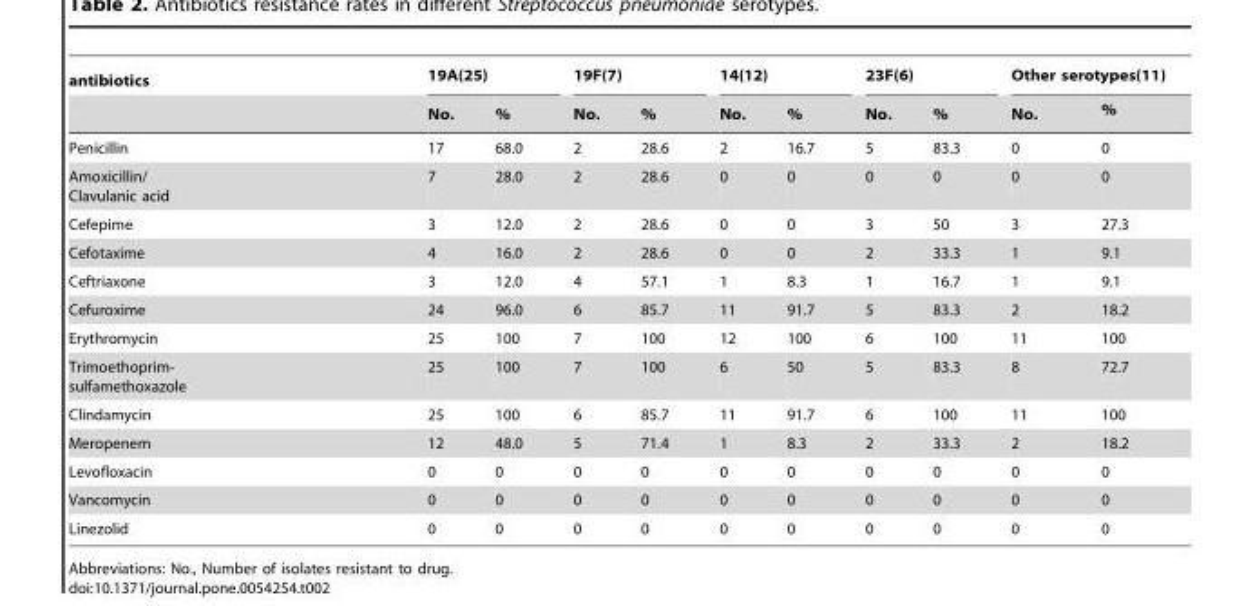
<table><thead><tr><td rowspan="2">antibiotics</td><td colspan="2">19A(25)</td><td colspan="2">19F(7)</td><td colspan="2">14(12)</td><td colspan="2">23F(6)</td><td colspan="2">Other serotypes(11)</td></tr><tr><td>No.</td><td>%</td><td>No.</td><td>%</td><td>No.</td><td>%</td><td>No.</td><td>%</td><td>No.</td><td>%</td></tr></thead><tbody><tr><td>Penicillin</td><td>17</td><td>68.0</td><td>2</td><td>28.6</td><td>2</td><td>16.7</td><td>5</td><td>83.3</td><td>0</td><td>0</td></tr><tr><td>Amoxicillin/ Clavulanic acid</td><td>7</td><td>28.0</td><td>2</td><td>28.6</td><td>0</td><td>0</td><td>0</td><td>0</td><td>0</td><td>0</td></tr><tr><td>Cefepime</td><td>3</td><td>12.0</td><td>2</td><td>28.6</td><td>0</td><td>0</td><td>3</td><td>50</td><td>3</td><td>27.3</td></tr><tr><td>Cefotaxime</td><td>4</td><td>16.0</td><td>2</td><td>28.6</td><td>0</td><td>0</td><td>2</td><td>33.3</td><td>1</td><td>9.1</td></tr><tr><td>Ceftriaxone</td><td>3</td><td>12.0</td><td>4</td><td>57.1</td><td>1</td><td>8.3</td><td>1</td><td>16.7</td><td>1</td><td>9.1</td></tr><tr><td>Cefuroxime</td><td>24</td><td>96.0</td><td>6</td><td>85.7</td><td>11</td><td>91.7</td><td>5</td><td>83.3</td><td>2</td><td>18.2</td></tr><tr><td>Erythromycin</td><td>25</td><td>100</td><td>7</td><td>100</td><td>12</td><td>100</td><td>6</td><td>100</td><td>11</td><td>100</td></tr><tr><td>Trimoethoprim- sulfamethoxazole</td><td>25</td><td>100</td><td>7</td><td>100</td><td>6</td><td>50</td><td>5</td><td>83.3</td><td>8</td><td>72.7</td></tr><tr><td>Clindamycin</td><td>25</td><td>100</td><td>6</td><td>85.7</td><td>11</td><td>91.7</td><td>6</td><td>100</td><td>11</td><td>100</td></tr><tr><td>Meropenem</td><td>12</td><td>48.0</td><td>5</td><td>71.4</td><td>1</td><td>8.3</td><td>2</td><td>33.3</td><td>2</td><td>18.2</td></tr><tr><td>Levofloxacin</td><td>0</td><td>0</td><td>0</td><td>0</td><td>0</td><td>0</td><td>0</td><td>0</td><td>0</td><td>0</td></tr><tr><td>Vancomycin</td><td>0</td><td>0</td><td>0</td><td>0</td><td>0</td><td>0</td><td>0</td><td>0</td><td>0</td><td>0</td></tr><tr><td>Linezolid</td><td>0</td><td>0</td><td>0</td><td>0</td><td>0</td><td>0</td><td>0</td><td>0</td><td>0</td><td>0</td></tr></tbody></table>